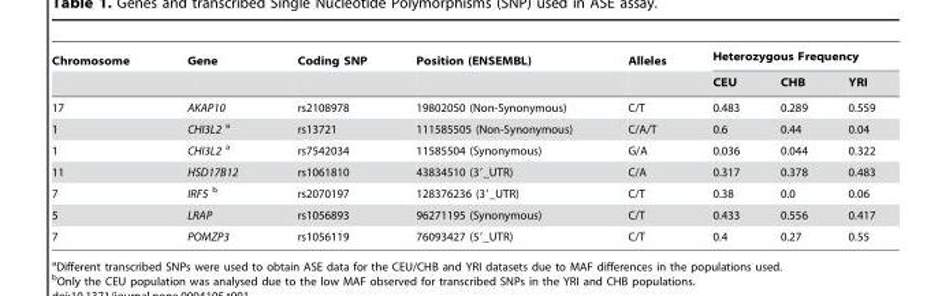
<table><thead><tr><td rowspan="2">Chromosome</td><td rowspan="2">Gene</td><td rowspan="2">Coding SNP</td><td rowspan="2">Position (ENSEMBL)</td><td rowspan="2">Alleles</td><td colspan="3">Heterozygous Frequency</td></tr><tr><td>CEU</td><td>CHB</td><td>YRI</td></tr></thead><tbody><tr><td>17</td><td>AKAP10</td><td>rs2108978</td><td>19802050 (Non-Synonymous)</td><td>C/T</td><td>0.483</td><td>0.289</td><td>0.559</td></tr><tr><td>1</td><td>CHI3L2 a</td><td>rs13721</td><td>111585505 (Non-Synonymous)</td><td>C/A/T</td><td>0.6</td><td>0.44</td><td>0.04</td></tr><tr><td>1</td><td>CHI3L2 a</td><td>rs7542034</td><td>11585504 (Synonymous)</td><td>G/A</td><td>0.036</td><td>0.044</td><td>0.322</td></tr><tr><td>11</td><td>HSD17B12</td><td>rs1061810</td><td>43834510 (3′_UTR)</td><td>C/A</td><td>0.317</td><td>0.378</td><td>0.483</td></tr><tr><td>7</td><td>IRF5 b</td><td>rs2070197</td><td>128376236 (3′_UTR)</td><td>C/T</td><td>0.38</td><td>0.0</td><td>0.06</td></tr><tr><td>5</td><td>LRAP</td><td>rs1056893</td><td>96271195 (Synonymous)</td><td>C/T</td><td>0.433</td><td>0.556</td><td>0.417</td></tr><tr><td>7</td><td>POMZP3</td><td>rs1056119</td><td>76093427 (5′_UTR)</td><td>C/T</td><td>0.4</td><td>0.27</td><td>0.55</td></tr></tbody></table>